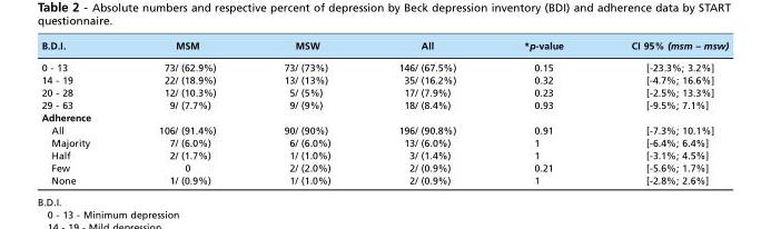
<table><thead><tr><td>B.D.I.</td><td>MSM</td><td>MSW</td><td>All</td><td>*p-value</td><td>CI 95% (msm – msw)</td></tr></thead><tbody><tr><td>0 - 13</td><td>73/ (62.9%)</td><td>73/ (73%)</td><td>146/ (67.5%)</td><td>0.15</td><td>[-23.3%; 3.2%]</td></tr><tr><td>14 - 19</td><td>22/ (18.9%)</td><td>13/ (13%)</td><td>35/ (16.2%)</td><td>0.32</td><td>[-4.7%; 16.6%]</td></tr><tr><td>20 - 28</td><td>12/ (10.3%)</td><td>5/ (5%)</td><td>17/ (7.9%)</td><td>0.23</td><td>[-2.5%; 13.3%]</td></tr><tr><td>29 - 63</td><td>9/ (7.7%)</td><td>9/ (9%)</td><td>18/ (8.4%)</td><td>0.93</td><td>[-9.5%; 7.1%]</td></tr><tr><td colspan="6">Adherence</td></tr><tr><td>All</td><td>106/ (91.4%)</td><td>90/ (90%)</td><td>196/ (90.8%)</td><td>0.91</td><td>[-7.3%; 10.1%]</td></tr><tr><td>Majority</td><td>7/ (6.0%)</td><td>6/ (6.0%)</td><td>13/ (6.0%)</td><td>1</td><td>[-6.4%; 6.4%]</td></tr><tr><td>Half</td><td>2/ (1.7%)</td><td>1/ (1.0%)</td><td>3/ (1.4%)</td><td>1</td><td>[-3.1%; 4.5%]</td></tr><tr><td>Few</td><td>0</td><td>2/ (2.0%)</td><td>2/ (0.9%)</td><td>0.21</td><td>[-5.6%; 1.7%]</td></tr><tr><td>None</td><td>1/ (0.9%)</td><td>1/ (1.0%)</td><td>2/ (0.9%)</td><td>1</td><td>[-2.8%; 2.6%]</td></tr></tbody></table>